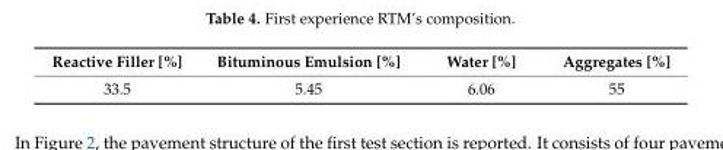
<table><thead><tr><td>Reactive Filler [%]</td><td>Bituminous Emulsion [%]</td><td>Water [%]</td><td>Aggregates [%]</td></tr></thead><tbody><tr><td>33.5</td><td>5.45</td><td>6.06</td><td>55</td></tr></tbody></table>